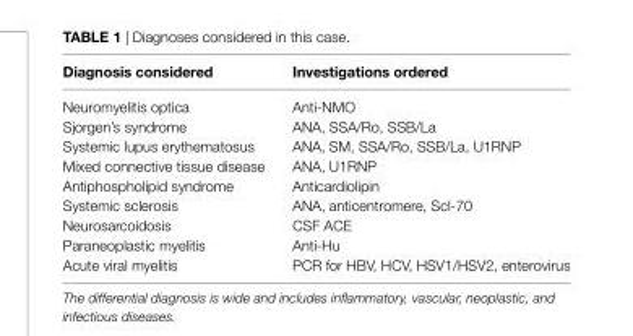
<table><thead><tr><td>Diagnosis considered</td><td>Investigations ordered</td></tr></thead><tbody><tr><td>Neuromyelitis optica</td><td>Anti-NMO</td></tr><tr><td>Sjorgen’s syndrome</td><td>ANA, SSA/Ro, SSB/La</td></tr><tr><td>Systemic lupus erythematosus</td><td>ANA, SM, SSA/Ro, SSB/La, U1RNP</td></tr><tr><td>Mixed connective tissue disease</td><td>ANA, U1RNP</td></tr><tr><td>Antiphospholipid syndrome</td><td>Anticardiolipin</td></tr><tr><td>Systemic sclerosis</td><td>ANA, anticentromere, Scl-70</td></tr><tr><td>Neurosarcoidosis</td><td>CSF ACE</td></tr><tr><td>Paraneoplastic myelitis</td><td>Anti-Hu</td></tr><tr><td>Acute viral myelitis</td><td>PCR for HBV, HCV, HSV1/HSV2, enterovirus</td></tr></tbody></table>